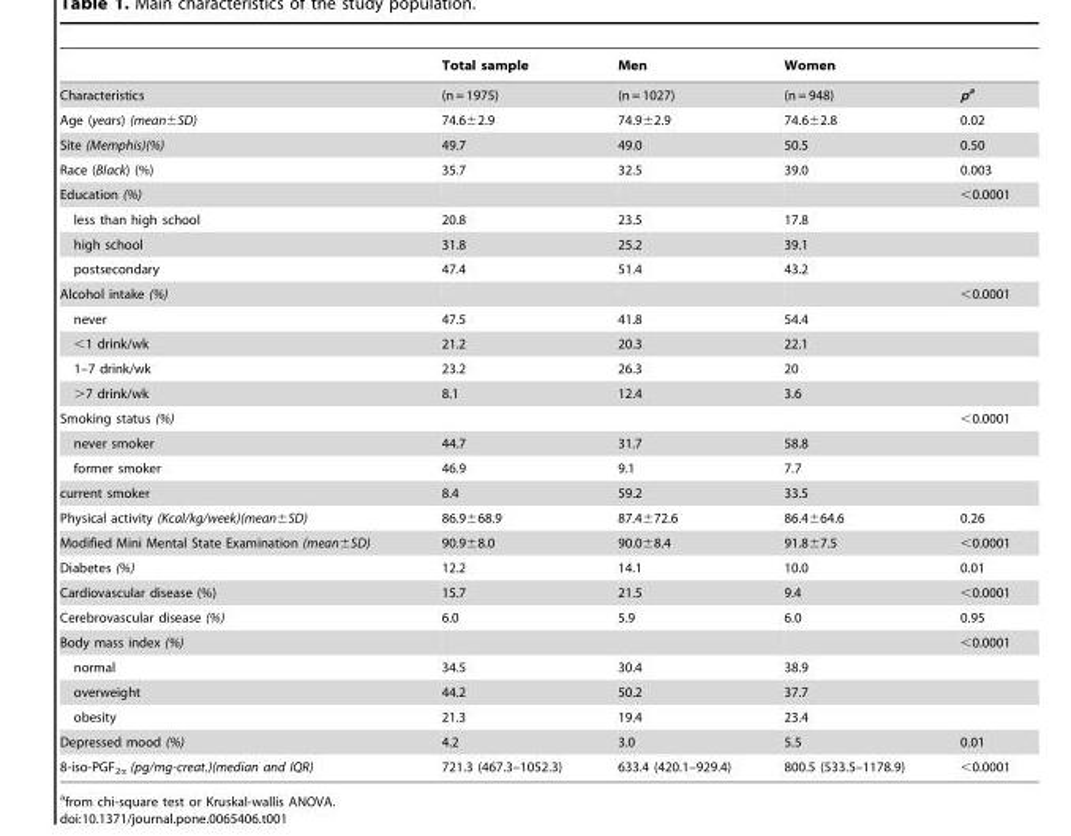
<table><thead><tr><td></td><td>Total sample</td><td>Men</td><td>Women</td><td></td></tr></thead><tbody><tr><td>Characteristics</td><td>(n = 1975)</td><td>(n = 1027)</td><td>(n = 948)</td><td>pa</td></tr><tr><td>Age (years) (mean±SD)</td><td>74.6±2.9</td><td>74.9±2.9</td><td>74.6±2.8</td><td>0.02</td></tr><tr><td>Site (Memphis)(%)</td><td>49.7</td><td>49.0</td><td>50.5</td><td>0.50</td></tr><tr><td>Race (Black) (%)</td><td>35.7</td><td>32.5</td><td>39.0</td><td>0.003</td></tr><tr><td>Education (%)</td><td></td><td></td><td></td><td>&lt;0.0001</td></tr><tr><td>less than high school</td><td>20.8</td><td>23.5</td><td>17.8</td><td></td></tr><tr><td>high school</td><td>31.8</td><td>25.2</td><td>39.1</td><td></td></tr><tr><td>postsecondary</td><td>47.4</td><td>51.4</td><td>43.2</td><td></td></tr><tr><td>Alcohol intake (%)</td><td></td><td></td><td></td><td>&lt;0.0001</td></tr><tr><td>never</td><td>47.5</td><td>41.8</td><td>54.4</td><td></td></tr><tr><td>&lt;1 drink/wk</td><td>21.2</td><td>20.3</td><td>22.1</td><td></td></tr><tr><td>1–7 drink/wk</td><td>23.2</td><td>26.3</td><td>20</td><td></td></tr><tr><td>&gt;7 drink/wk</td><td>8.1</td><td>12.4</td><td>3.6</td><td></td></tr><tr><td>Smoking status (%)</td><td></td><td></td><td></td><td>&lt;0.0001</td></tr><tr><td>never smoker</td><td>44.7</td><td>31.7</td><td>58.8</td><td></td></tr><tr><td>former smoker</td><td>46.9</td><td>9.1</td><td>7.7</td><td></td></tr><tr><td>current smoker</td><td>8.4</td><td>59.2</td><td>33.5</td><td></td></tr><tr><td>Physical activity (Kcal/kg/week)(mean±SD)</td><td>86.9±68.9</td><td>87.4±72.6</td><td>86.4±64.6</td><td>0.26</td></tr><tr><td>Modified Mini Mental State Examination (mean±SD)</td><td>90.9±8.0</td><td>90.0±8.4</td><td>91.8±7.5</td><td>&lt;0.0001</td></tr><tr><td>Diabetes (%)</td><td>12.2</td><td>14.1</td><td>10.0</td><td>0.01</td></tr><tr><td>Cardiovascular disease (%)</td><td>15.7</td><td>21.5</td><td>9.4</td><td>&lt;0.0001</td></tr><tr><td>Cerebrovascular disease (%)</td><td>6.0</td><td>5.9</td><td>6.0</td><td>0.95</td></tr><tr><td>Body mass index (%)</td><td></td><td></td><td></td><td>&lt;0.0001</td></tr><tr><td>normal</td><td>34.5</td><td>30.4</td><td>38.9</td><td></td></tr><tr><td>overweight</td><td>44.2</td><td>50.2</td><td>37.7</td><td></td></tr><tr><td>obesity</td><td>21.3</td><td>19.4</td><td>23.4</td><td></td></tr><tr><td>Depressed mood (%)</td><td>4.2</td><td>3.0</td><td>5.5</td><td>0.01</td></tr><tr><td>8-iso-PGF<sub>2α</sub> (pg/mg-creat.)(median and IQR)</td><td>721.3 (467.3–1052.3)</td><td>633.4 (420.1–929.4)</td><td>800.5 (533.5–1178.9)</td><td>&lt;0.0001</td></tr></tbody></table>